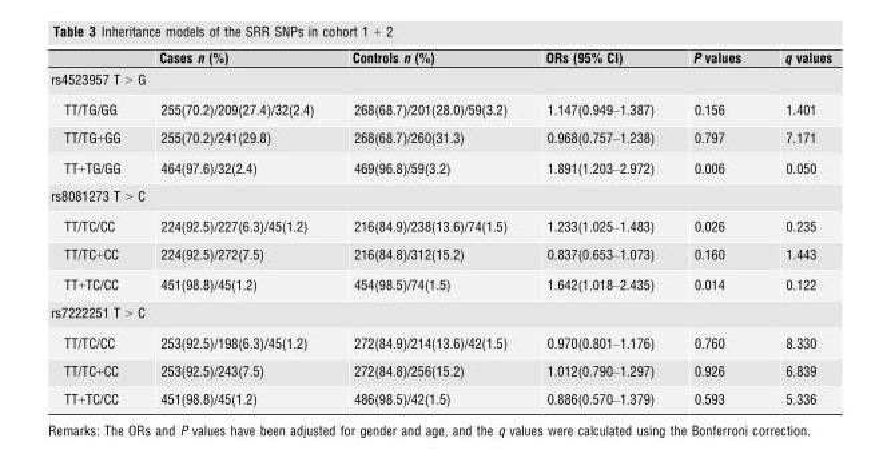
<table><thead><tr><td></td><td>Cases n (%)</td><td>Controls n (%)</td><td>ORs (95% CI)</td><td>P values</td><td>q values</td></tr></thead><tbody><tr><td colspan="6">rs4523957 T &gt; G</td></tr><tr><td>TT/TG/GG</td><td>255(70.2)/209(27.4)/32(2.4)</td><td>268(68.7)/201(28.0)/59(3.2)</td><td>1.147(0.949–1.387)</td><td>0.156</td><td>1.401</td></tr><tr><td>TT/TG+GG</td><td>255(70.2)/241(29.8)</td><td>268(68.7)/260(31.3)</td><td>0.968(0.757–1.238)</td><td>0.797</td><td>7.171</td></tr><tr><td>TT+TG/GG</td><td>464(97.6)/32(2.4)</td><td>469(96.8)/59(3.2)</td><td>1.891(1.203–2.972)</td><td>0.006</td><td>0.050</td></tr><tr><td colspan="6">rs8081273 T &gt; C</td></tr><tr><td>TT/TC/CC</td><td>224(92.5)/227(6.3)/45(1.2)</td><td>216(84.9)/238(13.6)/74(1.5)</td><td>1.233(1.025–1.483)</td><td>0.026</td><td>0.235</td></tr><tr><td>TT/TC+CC</td><td>224(92.5)/272(7.5)</td><td>216(84.8)/312(15.2)</td><td>0.837(0.653–1.073)</td><td>0.160</td><td>1.443</td></tr><tr><td>TT+TC/CC</td><td>451(98.8)/45(1.2)</td><td>454(98.5)/74(1.5)</td><td>1.642(1.018–2.435)</td><td>0.014</td><td>0.122</td></tr><tr><td colspan="6">rs7222251 T &gt; C</td></tr><tr><td>TT/TC/CC</td><td>253(92.5)/198(6.3)/45(1.2)</td><td>272(84.9)/214(13.6)/42(1.5)</td><td>0.970(0.801–1.176)</td><td>0.760</td><td>8.330</td></tr><tr><td>TT/TC+CC</td><td>253(92.5)/243(7.5)</td><td>272(84.8)/256(15.2)</td><td>1.012(0.790–1.297)</td><td>0.926</td><td>6.839</td></tr><tr><td>TT+TC/CC</td><td>451(98.8)/45(1.2)</td><td>486(98.5)/42(1.5)</td><td>0.886(0.570–1.379)</td><td>0.593</td><td>5.336</td></tr></tbody></table>